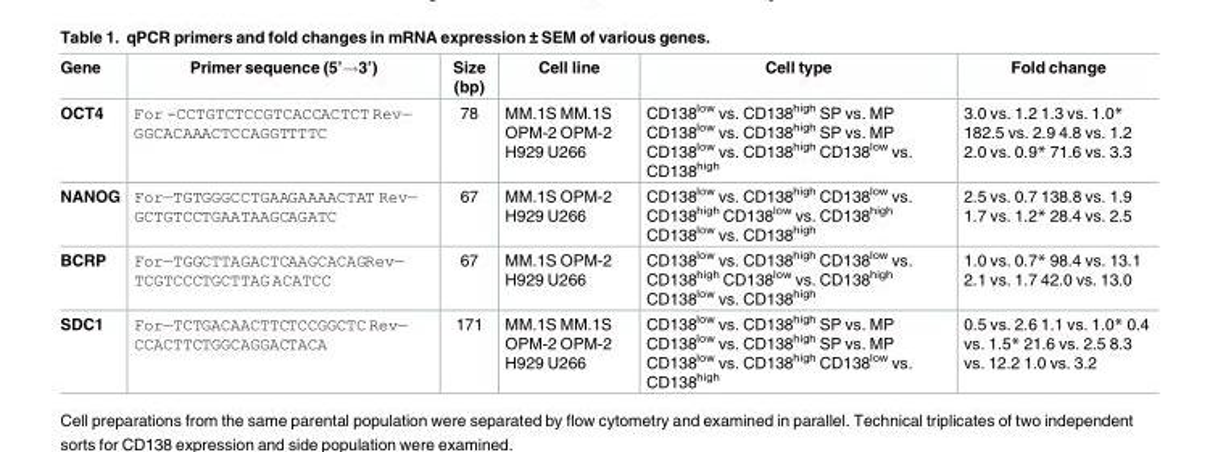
<table><thead><tr><td>Gene</td><td>Primer sequence (5’→3’)</td><td>Size (bp)</td><td>Cell line</td><td>Cell type</td><td>Fold change</td></tr></thead><tbody><tr><td>OCT4</td><td>For -CCTGTCTCCGTCACCACTCT Rev— GGCACAAACTCCAGGTTTTC</td><td>78</td><td>MM.1S MM.1S OPM-2 OPM-2 H929 U266</td><td>CD138<sup>low</sup> vs. CD138<sup>high</sup> SP vs. MP CD138<sup>low</sup> vs. CD138<sup>high</sup> SP vs. MP CD138<sup>low</sup> vs. CD138<sup>high</sup> CD138<sup>low</sup> vs. CD138<sup>high</sup></td><td>3.0 vs. 1.2 1.3 vs. 1.0* 182.5 vs. 2.9 4.8 vs. 1.2 2.0 vs. 0.9* 71.6 vs. 3.3</td></tr><tr><td>NANOG</td><td>For—TGTGGGCCTGAAGAAAACTAT Rev— GCTGTCCTGAATAAGCAGATC</td><td>67</td><td>MM.1S OPM-2 H929 U266</td><td>CD138<sup>low</sup> vs. CD138<sup>high</sup> CD138<sup>low</sup> vs. CD138<sup>high</sup> CD138<sup>low</sup> vs. CD138<sup>high</sup> CD138<sup>low</sup> vs. CD138<sup>high</sup></td><td>2.5 vs. 0.7 138.8 vs. 1.9 1.7 vs. 1.2* 28.4 vs. 2.5</td></tr><tr><td>BCRP</td><td>For—TGGCTTAGACTCAAGCACAGRev— TCGTCCCTGCTTAG ACATCC</td><td>67</td><td>MM.1S OPM-2 H929 U266</td><td>CD138<sup>low</sup> vs. CD138<sup>high</sup> CD138<sup>low</sup> vs. CD138<sup>high</sup> CD138<sup>low</sup> vs. CD138<sup>high</sup> CD138<sup>low</sup> vs. CD138<sup>high</sup></td><td>1.0 vs. 0.7* 98.4 vs. 13.1 2.1 vs. 1.7 42.0 vs. 13.0</td></tr><tr><td>SDC1</td><td>For—TCTGACAACTTCTCCGGCTC Rev— CCACTTCTGGCAGGACTACA</td><td>171</td><td>MM.1S MM.1S OPM-2 OPM-2 H929 U266</td><td>CD138<sup>low</sup> vs. CD138<sup>high</sup> SP vs. MP CD138<sup>low</sup> vs. CD138<sup>high</sup> SP vs. MP CD138<sup>low</sup> vs. CD138<sup>high</sup> CD138<sup>low</sup> vs. CD138<sup>high</sup></td><td>0.5 vs. 2.6 1.1 vs. 1.0* 0.4 vs. 1.5* 21.6 vs. 2.5 8.3 vs. 12.2 1.0 vs. 3.2</td></tr></tbody></table>